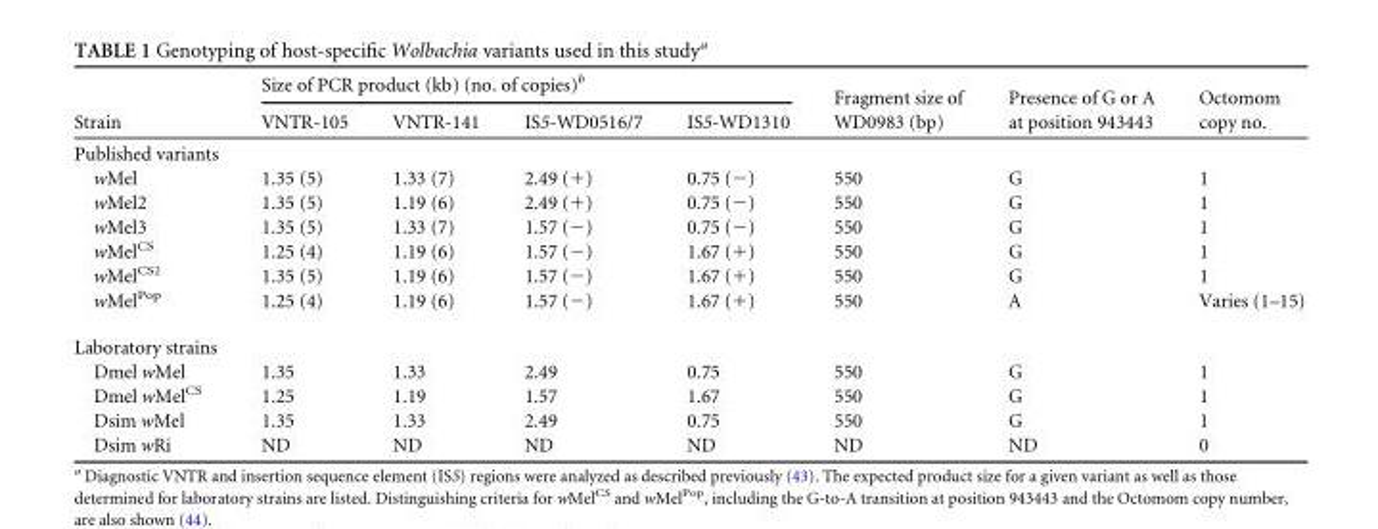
<table><thead><tr><td rowspan="2">Strain</td><td colspan="4">Size of PCR product (kb) (no. of copies)<sup>b</sup></td><td rowspan="2">Fragment size of WD0983 (bp)</td><td rowspan="2">Presence of G or A at position 943443</td><td rowspan="2">Octomom copy no.</td></tr><tr><td>VNTR-105</td><td>VNTR-141</td><td>IS5-WD0516/7</td><td>IS5-WD1310</td></tr></thead><tbody><tr><td colspan="8">Published variants</td></tr><tr><td>wMel</td><td>1.35 (5)</td><td>1.33 (7)</td><td>2.49 (+)</td><td>0.75 (−)</td><td>550</td><td>G</td><td>1</td></tr><tr><td>wMel2</td><td>1.35 (5)</td><td>1.19 (6)</td><td>2.49 (+)</td><td>0.75 (−)</td><td>550</td><td>G</td><td>1</td></tr><tr><td>wMel3</td><td>1.35 (5)</td><td>1.33 (7)</td><td>1.57 (−)</td><td>0.75 (−)</td><td>550</td><td>G</td><td>1</td></tr><tr><td>wMel<sup>CS</sup></td><td>1.25 (4)</td><td>1.19 (6)</td><td>1.57 (−)</td><td>1.67 (+)</td><td>550</td><td>G</td><td>1</td></tr><tr><td>wMel<sup>CS2</sup></td><td>1.35 (5)</td><td>1.19 (6)</td><td>1.57 (−)</td><td>1.67 (+)</td><td>550</td><td>G</td><td>1</td></tr><tr><td>wMel<sup>Pop</sup></td><td>1.25 (4)</td><td>1.19 (6)</td><td>1.57 (−)</td><td>1.67 (+)</td><td>550</td><td>A</td><td>Varies (1–15)</td></tr><tr><td colspan="8">Laboratory strains</td></tr><tr><td>Dmel wMel</td><td>1.35</td><td>1.33</td><td>2.49</td><td>0.75</td><td>550</td><td>G</td><td>1</td></tr><tr><td>Dmel wMel<sup>CS</sup></td><td>1.25</td><td>1.19</td><td>1.57</td><td>1.67</td><td>550</td><td>G</td><td>1</td></tr><tr><td>Dsim wMel</td><td>1.35</td><td>1.33</td><td>2.49</td><td>0.75</td><td>550</td><td>G</td><td>1</td></tr><tr><td>Dsim wRi</td><td>ND</td><td>ND</td><td>ND</td><td>ND</td><td>ND</td><td>ND</td><td>0</td></tr></tbody></table>